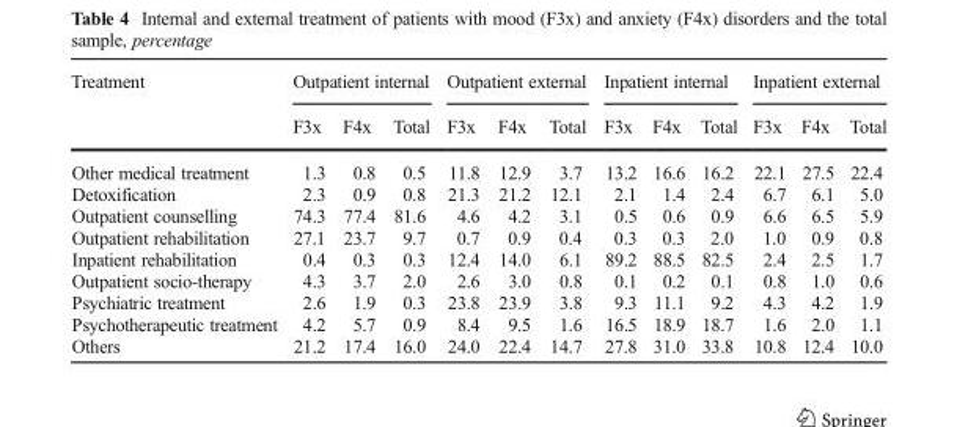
<table><thead><tr><td rowspan="2">Treatment</td><td colspan="3">Outpatient internal</td><td colspan="3">Outpatient external</td><td colspan="3">Inpatient internal</td><td colspan="3">Inpatient external</td></tr><tr><td>F3x</td><td>F4x</td><td>Total</td><td>F3x</td><td>F4x</td><td>Total</td><td>F3x</td><td>F4x</td><td>Total</td><td>F3x</td><td>F4x</td><td>Total</td></tr></thead><tbody><tr><td>Other medical treatment</td><td>1.3</td><td>0.8</td><td>0.5</td><td>11.8</td><td>12.9</td><td>3.7</td><td>13.2</td><td>16.6</td><td>16.2</td><td>22.1</td><td>27.5</td><td>22.4</td></tr><tr><td>Detoxification</td><td>2.3</td><td>0.9</td><td>0.8</td><td>21.3</td><td>21.2</td><td>12.1</td><td>2.1</td><td>1.4</td><td>2.4</td><td>6.7</td><td>6.1</td><td>5.0</td></tr><tr><td>Outpatient counselling</td><td>74.3</td><td>77.4</td><td>81.6</td><td>4.6</td><td>4.2</td><td>3.1</td><td>0.5</td><td>0.6</td><td>0.9</td><td>6.6</td><td>6.5</td><td>5.9</td></tr><tr><td>Outpatient rehabilitation</td><td>27.1</td><td>23.7</td><td>9.7</td><td>0.7</td><td>0.9</td><td>0.4</td><td>0.3</td><td>0.3</td><td>2.0</td><td>1.0</td><td>0.9</td><td>0.8</td></tr><tr><td>Inpatient rehabilitation</td><td>0.4</td><td>0.3</td><td>0.3</td><td>12.4</td><td>14.0</td><td>6.1</td><td>89.2</td><td>88.5</td><td>82.5</td><td>2.4</td><td>2.5</td><td>1.7</td></tr><tr><td>Outpatient socio-therapy</td><td>4.3</td><td>3.7</td><td>2.0</td><td>2.6</td><td>3.0</td><td>0.8</td><td>0.1</td><td>0.2</td><td>0.1</td><td>0.8</td><td>1.0</td><td>0.6</td></tr><tr><td>Psychiatric treatment</td><td>2.6</td><td>1.9</td><td>0.3</td><td>23.8</td><td>23.9</td><td>3.8</td><td>9.3</td><td>11.1</td><td>9.2</td><td>4.3</td><td>4.2</td><td>1.9</td></tr><tr><td>Psychotherapeutic treatment</td><td>4.2</td><td>5.7</td><td>0.9</td><td>8.4</td><td>9.5</td><td>1.6</td><td>16.5</td><td>18.9</td><td>18.7</td><td>1.6</td><td>2.0</td><td>1.1</td></tr><tr><td>Others</td><td>21.2</td><td>17.4</td><td>16.0</td><td>24.0</td><td>22.4</td><td>14.7</td><td>27.8</td><td>31.0</td><td>33.8</td><td>10.8</td><td>12.4</td><td>10.0</td></tr></tbody></table>